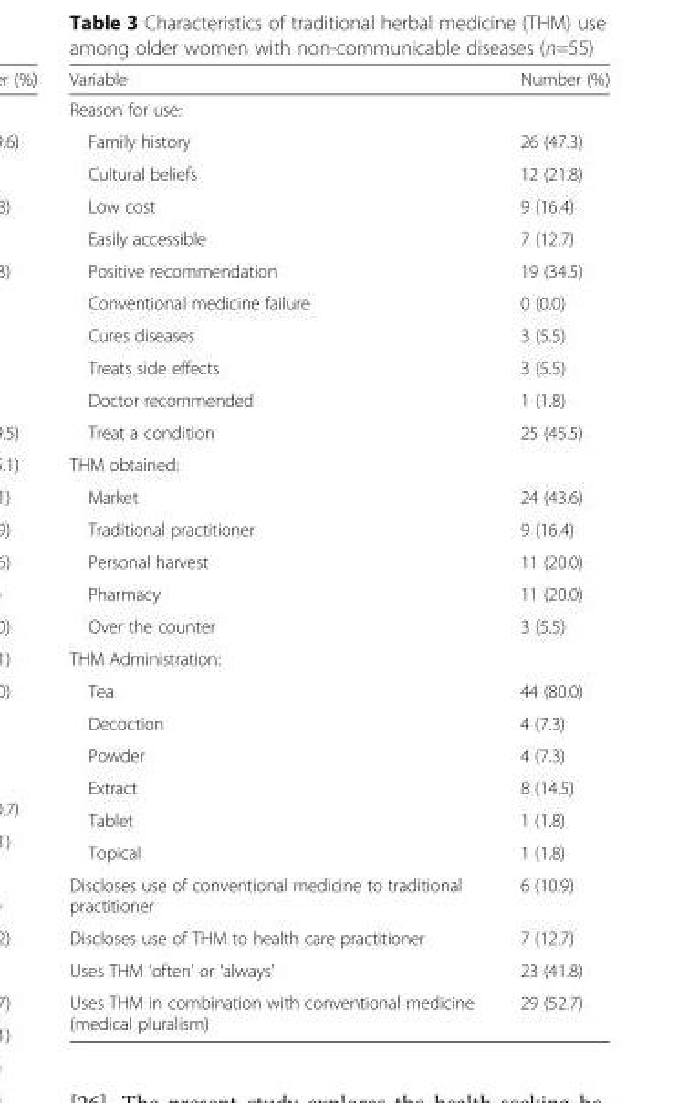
<table><thead><tr><td>Variable</td><td>Number (%)</td></tr></thead><tbody><tr><td colspan="2">Reason for use:</td></tr><tr><td>Family history</td><td>26 (47.3)</td></tr><tr><td>Cultural beliefs</td><td>12 (21.8)</td></tr><tr><td>Low cost</td><td>9 (16.4)</td></tr><tr><td>Easily accessible</td><td>7 (12.7)</td></tr><tr><td>Positive recommendation</td><td>19 (34.5)</td></tr><tr><td>Conventional medicine failure</td><td>0 (0.0)</td></tr><tr><td>Cures diseases</td><td>3 (5.5)</td></tr><tr><td>Treats side effects</td><td>3 (5.5)</td></tr><tr><td>Doctor recommended</td><td>1 (1.8)</td></tr><tr><td>Treat a condition</td><td>25 (45.5)</td></tr><tr><td colspan="2">THM obtained:</td></tr><tr><td>Market</td><td>24 (43.6)</td></tr><tr><td>Traditional practitioner</td><td>9 (16.4)</td></tr><tr><td>Personal harvest</td><td>11 (20.0)</td></tr><tr><td>Pharmacy</td><td>11 (20.0)</td></tr><tr><td>Over the counter</td><td>3 (5.5)</td></tr><tr><td colspan="2">THM Administration:</td></tr><tr><td>Tea</td><td>44 (80.0)</td></tr><tr><td>Decoction</td><td>4 (7.3)</td></tr><tr><td>Powder</td><td>4 (7.3)</td></tr><tr><td>Extract</td><td>8 (14.5)</td></tr><tr><td>Tablet</td><td>1 (1.8)</td></tr><tr><td>Topical</td><td>1 (1.8)</td></tr><tr><td>Discloses use of conventional medicine to traditional practitioner</td><td>6 (10.9)</td></tr><tr><td>Discloses use of THM to health care practitioner</td><td>7 (12.7)</td></tr><tr><td>Uses THM ‘often’ or ‘always’</td><td>23 (41.8)</td></tr><tr><td>Uses THM in combination with conventional medicine (medical pluralism)</td><td>29 (52.7)</td></tr></tbody></table>